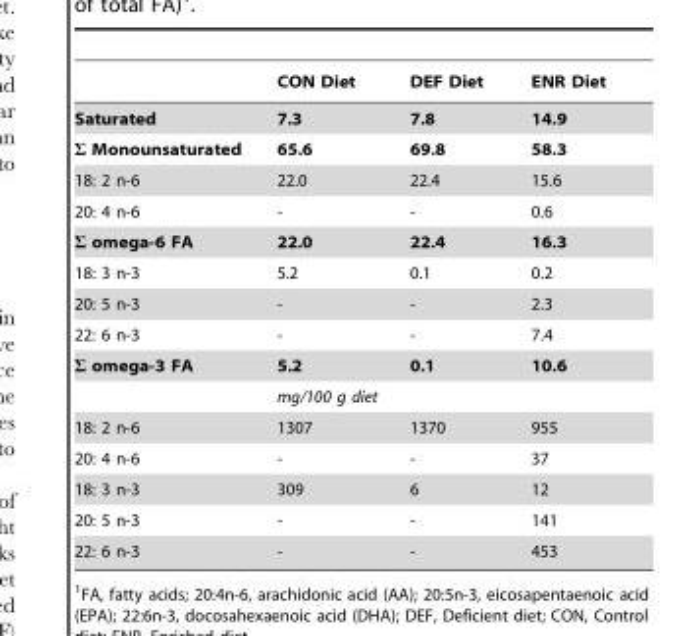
<table><thead><tr><td></td><td>CON Diet</td><td>DEF Diet</td><td>ENR Diet</td></tr></thead><tbody><tr><td>Saturated</td><td>7.3</td><td>7.8</td><td>14.9</td></tr><tr><td>Σ Monounsaturated</td><td>65.6</td><td>69.8</td><td>58.3</td></tr><tr><td>18: 2 n-6</td><td>22.0</td><td>22.4</td><td>15.6</td></tr><tr><td>20: 4 n-6</td><td>-</td><td>-</td><td>0.6</td></tr><tr><td>Σ omega-6 FA</td><td>22.0</td><td>22.4</td><td>16.3</td></tr><tr><td>18: 3 n-3</td><td>5.2</td><td>0.1</td><td>0.2</td></tr><tr><td>20: 5 n-3</td><td>-</td><td>-</td><td>2.3</td></tr><tr><td>22: 6 n-3</td><td>-</td><td>-</td><td>7.4</td></tr><tr><td rowspan="2">Σ omega-3 FA</td><td>5.2</td><td>0.1</td><td>10.6</td></tr><tr><td colspan="3">mg/100 g diet</td></tr><tr><td>18: 2 n-6</td><td>1307</td><td>1370</td><td>955</td></tr><tr><td>20: 4 n-6</td><td>-</td><td>-</td><td>37</td></tr><tr><td>18: 3 n-3</td><td>309</td><td>6</td><td>12</td></tr><tr><td>20: 5 n-3</td><td>-</td><td>-</td><td>141</td></tr><tr><td>22: 6 n-3</td><td>-</td><td>-</td><td>453</td></tr></tbody></table>